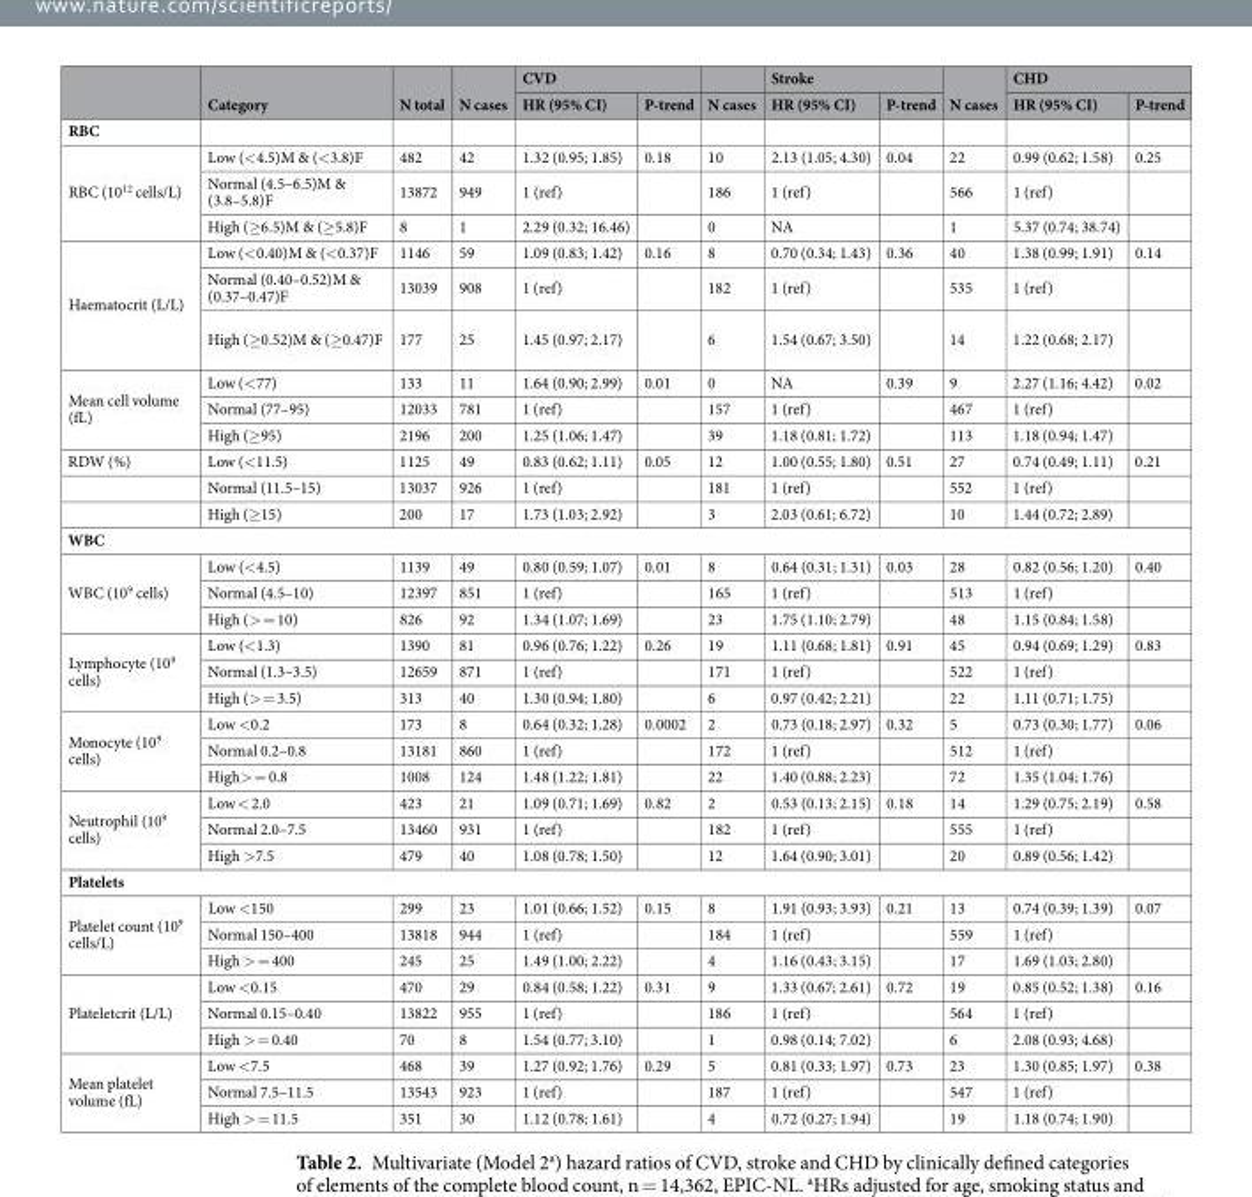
<table><thead><tr><td rowspan="2"></td><td rowspan="2">Category</td><td rowspan="2">N total</td><td rowspan="2">N cases</td><td colspan="2">CVD</td><td rowspan="2">N cases</td><td colspan="2">Stroke</td><td rowspan="2">N cases</td><td colspan="2">CHD</td></tr><tr><td>HR (95% CI)</td><td>P-trend</td><td>HR (95% CI)</td><td>P-trend</td><td>HR (95% CI)</td><td>P-trend</td></tr></thead><tbody><tr><td colspan="12">RBC</td></tr><tr><td rowspan="3">RBC (10<sup>12</sup> cells/L)</td><td>Low (&lt;4.5)M &amp; (&lt;3.8)F</td><td>482</td><td>42</td><td>1.32 (0.95; 1.85)</td><td>0.18</td><td>10</td><td>2.13 (1.05; 4.30)</td><td>0.04</td><td>22</td><td>0.99 (0.62; 1.58)</td><td>0.25</td></tr><tr><td>Normal (4.5–6.5)M &amp; (3.8–5.8)F</td><td>13872</td><td>949</td><td>1 (ref)</td><td></td><td>186</td><td>1 (ref)</td><td></td><td>566</td><td>1 (ref)</td><td></td></tr><tr><td>High (≥6.5)M &amp; (≥5.8)F</td><td>8</td><td>1</td><td>2.29 (0.32; 16.46)</td><td></td><td>0</td><td>NA</td><td></td><td>1</td><td>5.37 (0.74; 38.74)</td><td></td></tr><tr><td rowspan="3">Haematocrit (L/L)</td><td>Low (&lt;0.40)M &amp; (&lt;0.37)F</td><td>1146</td><td>59</td><td>1.09 (0.83; 1.42)</td><td>0.16</td><td>8</td><td>0.70 (0.34; 1.43)</td><td>0.36</td><td>40</td><td>1.38 (0.99; 1.91)</td><td>0.14</td></tr><tr><td>Normal (0.40–0.52)M &amp; (0.37–0.47)F</td><td>13039</td><td>908</td><td>1 (ref)</td><td></td><td>182</td><td>1 (ref)</td><td></td><td>535</td><td>1 (ref)</td><td></td></tr><tr><td>High (≥0.52)M &amp; (≥0.47)F</td><td>177</td><td>25</td><td>1.45 (0.97; 2.17)</td><td></td><td>6</td><td>1.54 (0.67; 3.50)</td><td></td><td>14</td><td>1.22 (0.68; 2.17)</td><td></td></tr><tr><td rowspan="3">Mean cell volume (fL)</td><td>Low (&lt;77)</td><td>133</td><td>11</td><td>1.64 (0.90; 2.99)</td><td>0.01</td><td>0</td><td>NA</td><td>0.39</td><td>9</td><td>2.27 (1.16; 4.42)</td><td>0.02</td></tr><tr><td>Normal (77–95)</td><td>12033</td><td>781</td><td>1 (ref)</td><td></td><td>157</td><td>1 (ref)</td><td></td><td>467</td><td>1 (ref)</td><td></td></tr><tr><td>High (≥95)</td><td>2196</td><td>200</td><td>1.25 (1.06; 1.47)</td><td></td><td>39</td><td>1.18 (0.81; 1.72)</td><td></td><td>113</td><td>1.18 (0.94; 1.47)</td><td></td></tr><tr><td rowspan="3">RDW (%)</td><td>Low (&lt;11.5)</td><td>1125</td><td>49</td><td>0.83 (0.62; 1.11)</td><td>0.05</td><td>12</td><td>1.00 (0.55; 1.80)</td><td>0.51</td><td>27</td><td>0.74 (0.49; 1.11)</td><td>0.21</td></tr><tr><td>Normal (11.5–15)</td><td>13037</td><td>926</td><td>1 (ref)</td><td></td><td>181</td><td>1 (ref)</td><td></td><td>552</td><td>1 (ref)</td><td></td></tr><tr><td>High (≥15)</td><td>200</td><td>17</td><td>1.73 (1.03; 2.92)</td><td></td><td>3</td><td>2.03 (0.61; 6.72)</td><td></td><td>10</td><td>1.44 (0.72; 2.89)</td><td></td></tr><tr><td colspan="12">WBC</td></tr><tr><td rowspan="3">WBC (10<sup>9</sup> cells)</td><td>Low (&lt;4.5)</td><td>1139</td><td>49</td><td>0.80 (0.59; 1.07)</td><td>0.01</td><td>8</td><td>0.64 (0.31; 1.31)</td><td>0.03</td><td>28</td><td>0.82 (0.56; 1.20)</td><td>0.40</td></tr><tr><td>Normal (4.5–10)</td><td>12397</td><td>851</td><td>1 (ref)</td><td></td><td>165</td><td>1 (ref)</td><td></td><td>513</td><td>1 (ref)</td><td></td></tr><tr><td>High (&gt; = 10)</td><td>826</td><td>92</td><td>1.34 (1.07; 1.69)</td><td></td><td>23</td><td>1.75 (1.10; 2.79)</td><td></td><td>48</td><td>1.15 (0.84; 1.58)</td><td></td></tr><tr><td rowspan="3">Lymphocyte (10<sup>9</sup> cells)</td><td>Low (&lt;1.3)</td><td>1390</td><td>81</td><td>0.96 (0.76; 1.22)</td><td>0.26</td><td>19</td><td>1.11 (0.68; 1.81)</td><td>0.91</td><td>45</td><td>0.94 (0.69; 1.29)</td><td>0.83</td></tr><tr><td>Normal (1.3–3.5)</td><td>12659</td><td>871</td><td>1 (ref)</td><td></td><td>171</td><td>1 (ref)</td><td></td><td>522</td><td>1 (ref)</td><td></td></tr><tr><td>High (&gt; = 3.5)</td><td>313</td><td>40</td><td>1.30 (0.94; 1.80)</td><td></td><td>6</td><td>0.97 (0.42; 2.21)</td><td></td><td>22</td><td>1.11 (0.71; 1.75)</td><td></td></tr><tr><td rowspan="3">Monocyte (10<sup>9</sup> cells)</td><td>Low &lt;0.2</td><td>173</td><td>8</td><td>0.64 (0.32; 1.28)</td><td>0.0002</td><td>2</td><td>0.73 (0.18; 2.97)</td><td>0.32</td><td>5</td><td>0.73 (0.30; 1.77)</td><td>0.06</td></tr><tr><td>Normal 0.2–0.8</td><td>13181</td><td>860</td><td>1 (ref)</td><td></td><td>172</td><td>1 (ref)</td><td></td><td>512</td><td>1 (ref)</td><td></td></tr><tr><td>High&gt; = 0.8</td><td>1008</td><td>124</td><td>1.48 (1.22; 1.81)</td><td></td><td>22</td><td>1.40 (0.88; 2.23)</td><td></td><td>72</td><td>1.35 (1.04; 1.76)</td><td></td></tr><tr><td rowspan="3">Neutrophil (10<sup>9</sup> cells)</td><td>Low &lt; 2.0</td><td>423</td><td>21</td><td>1.09 (0.71; 1.69)</td><td>0.82</td><td>2</td><td>0.53 (0.13; 2.15)</td><td>0.18</td><td>14</td><td>1.29 (0.75; 2.19)</td><td>0.58</td></tr><tr><td>Normal 2.0–7.5</td><td>13460</td><td>931</td><td>1 (ref)</td><td></td><td>182</td><td>1 (ref)</td><td></td><td>555</td><td>1 (ref)</td><td></td></tr><tr><td>High &gt;7.5</td><td>479</td><td>40</td><td>1.08 (0.78; 1.50)</td><td></td><td>12</td><td>1.64 (0.90; 3.01)</td><td></td><td>20</td><td>0.89 (0.56; 1.42)</td><td></td></tr><tr><td colspan="12">Platelets</td></tr><tr><td rowspan="3">Platelet count (10<sup>9</sup> cells/L)</td><td>Low &lt;150</td><td>299</td><td>23</td><td>1.01 (0.66; 1.52)</td><td>0.15</td><td>8</td><td>1.91 (0.93; 3.93)</td><td>0.21</td><td>13</td><td>0.74 (0.39; 1.39)</td><td>0.07</td></tr><tr><td>Normal 150–400</td><td>13818</td><td>944</td><td>1 (ref)</td><td></td><td>184</td><td>1 (ref)</td><td></td><td>559</td><td>1 (ref)</td><td></td></tr><tr><td>High &gt; = 400</td><td>245</td><td>25</td><td>1.49 (1.00; 2.22)</td><td></td><td>4</td><td>1.16 (0.43; 3.15)</td><td></td><td>17</td><td>1.69 (1.03; 2.80)</td><td></td></tr><tr><td rowspan="3">Plateletcrit (L/L)</td><td>Low &lt;0.15</td><td>470</td><td>29</td><td>0.84 (0.58; 1.22)</td><td>0.31</td><td>9</td><td>1.33 (0.67; 2.61)</td><td>0.72</td><td>19</td><td>0.85 (0.52; 1.38)</td><td>0.16</td></tr><tr><td>Normal 0.15–0.40</td><td>13822</td><td>955</td><td>1 (ref)</td><td></td><td>186</td><td>1 (ref)</td><td></td><td>564</td><td>1 (ref)</td><td></td></tr><tr><td>High &gt; = 0.40</td><td>70</td><td>8</td><td>1.54 (0.77; 3.10)</td><td></td><td>1</td><td>0.98 (0.14; 7.02)</td><td></td><td>6</td><td>2.08 (0.93; 4.68)</td><td></td></tr><tr><td rowspan="3">Mean platelet volume (fL)</td><td>Low &lt;7.5</td><td>468</td><td>39</td><td>1.27 (0.92; 1.76)</td><td>0.29</td><td>5</td><td>0.81 (0.33; 1.97)</td><td>0.73</td><td>23</td><td>1.30 (0.85; 1.97)</td><td>0.38</td></tr><tr><td>Normal 7.5–11.5</td><td>13543</td><td>923</td><td>1 (ref)</td><td></td><td>187</td><td>1 (ref)</td><td></td><td>547</td><td>1 (ref)</td><td></td></tr><tr><td>High &gt; = 11.5</td><td>351</td><td>30</td><td>1.12 (0.78; 1.61)</td><td></td><td>4</td><td>0.72 (0.27; 1.94)</td><td></td><td>19</td><td>1.18 (0.74; 1.90)</td><td></td></tr></tbody></table>